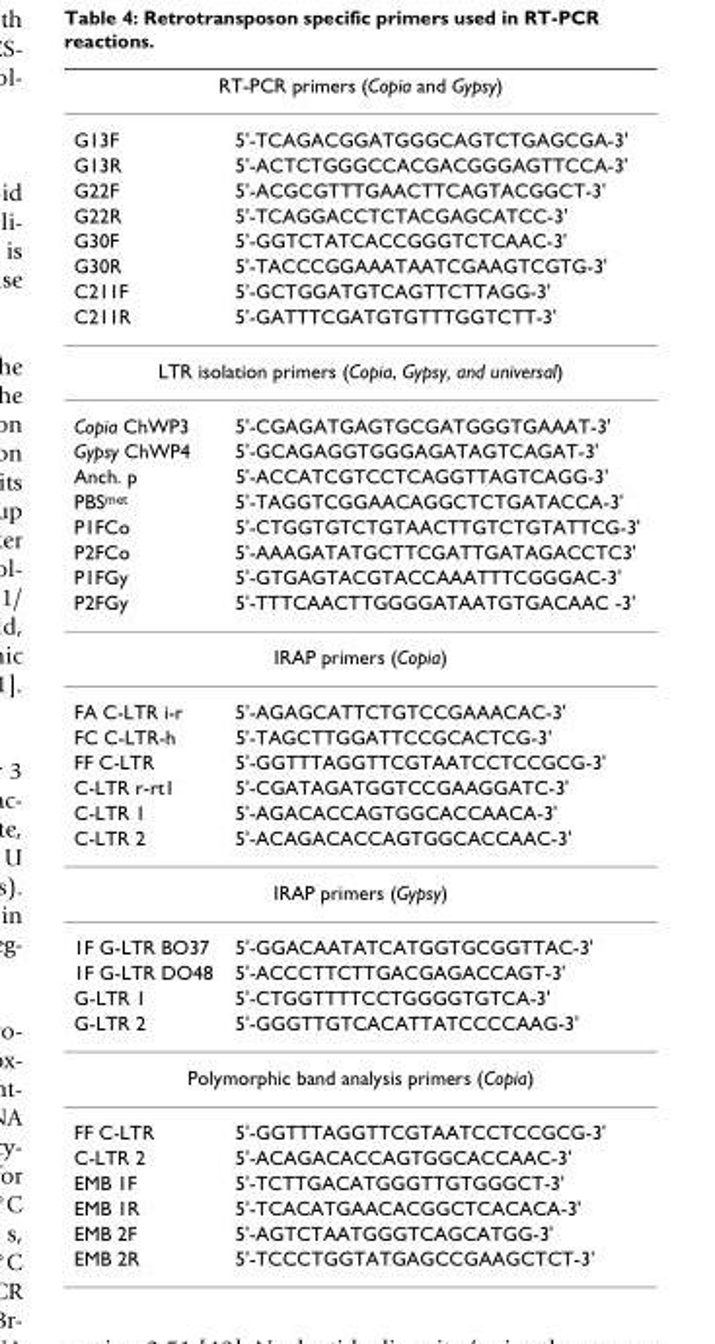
<table><thead><tr><td colspan="2">RT-PCR primers (Copia and Gypsy)</td></tr><tr><td>G13F</td><td>5&#x27;-TCAGACGGATGGGCAGTCTGAGCGA-3&#x27;</td></tr></thead><tbody><tr><td>G13R</td><td>5&#x27;-ACTCTGGGCCACGACGGGAGTTCCA-3&#x27;</td></tr><tr><td>G22F</td><td>5&#x27;-ACGCGTTTGAACTTCAGTACGGCT-3&#x27;</td></tr><tr><td>G22R</td><td>5&#x27;-TCAGGACCTCTACGAGCATCC-3&#x27;</td></tr><tr><td>G30F</td><td>5&#x27;-GGTCTATCACCGGGTCTCAAC-3&#x27;</td></tr><tr><td>G30R</td><td>5&#x27;-TACCCGGAAATAATCGAAGTCGTG-3&#x27;</td></tr><tr><td>C211F</td><td>5&#x27;-GCTGGATGTCAGTTCTTAGG-3&#x27;</td></tr><tr><td>C211R</td><td>5&#x27;-GATTTCGATGTGTTTGGTCTT-3&#x27;</td></tr><tr><td colspan="2">LTR isolation primers (Copia, Gypsy, and universal)</td></tr><tr><td>Copia ChWP3</td><td>5&#x27;-CGAGATGAGTGCGATGGGTGAAAT-3&#x27;</td></tr><tr><td>Gypsy ChWP4</td><td>5&#x27;-GCAGAGGTGGGAGATAGTCAGAT-3&#x27;</td></tr><tr><td>Anch. p</td><td>5&#x27;-ACCATCGTCCTCAGGTTAGTCAGG-3&#x27;</td></tr><tr><td>PBS<sup>met</sup></td><td>5&#x27;-TAGGTCGGAACAGGCTCTGATACCA-3&#x27;</td></tr><tr><td>P1FCo</td><td>5&#x27;-CTGGTGTCTGTAACTTGTCTGTATTCG-3&#x27;</td></tr><tr><td>P2FCo</td><td>5&#x27;-AAAGATATGCTTCGATTGATAGACCTC3&#x27;</td></tr><tr><td>P1FGy</td><td>5&#x27;-GTGAGTACGTACCAAATTTCGGGAC-3&#x27;</td></tr><tr><td>P2FGy</td><td>5&#x27;-TTTCAACTTGGGGATAATGTGACAAC -3&#x27;</td></tr><tr><td colspan="2">IRAP primers (Copia)</td></tr><tr><td>FA C-LTR i-r</td><td>5&#x27;-AGAGCATTCTGTCCGAAACAC-3&#x27;</td></tr><tr><td>FC C-LTR-h</td><td>5&#x27;-TAGCTTGGATTCCGCACTCG-3&#x27;</td></tr><tr><td>FF C-LTR</td><td>5&#x27;-GGTTTAGGTTCGTAATCCTCCGCG-3&#x27;</td></tr><tr><td>C-LTR r-rt1</td><td>5&#x27;-CGATAGATGGTCCGAAGGATC-3&#x27;</td></tr><tr><td>C-LTR 1</td><td>5&#x27;-AGACACCAGTGGCACCAACA-3&#x27;</td></tr><tr><td>C-LTR 2</td><td>5&#x27;-ACAGACACCAGTGGCACCAAC-3&#x27;</td></tr><tr><td colspan="2">IRAP primers (Gypsy)</td></tr><tr><td>1F G-LTR BO37</td><td>5&#x27;-GGACAATATCATGGTGCGGTTAC-3&#x27;</td></tr><tr><td>1F G-LTR DO48</td><td>5&#x27;-ACCCTTCTTGACGAGACCAGT-3&#x27;</td></tr><tr><td>G-LTR 1</td><td>5&#x27;-CTGGTTTTCCTGGGGTGTCA-3&#x27;</td></tr><tr><td>G-LTR 2</td><td>5&#x27;-GGGTTGTCACATTATCCCCAAG-3&#x27;</td></tr><tr><td colspan="2">Polymorphic band analysis primers (Copia)</td></tr><tr><td>FF C-LTR</td><td>5&#x27;-GGTTTAGGTTCGTAATCCTCCGCG-3&#x27;</td></tr><tr><td>C-LTR 2</td><td>5&#x27;-ACAGACACCAGTGGCACCAAC-3&#x27;</td></tr><tr><td>EMB 1F</td><td>5&#x27;-TCTTGACATGGGTTGTGGGCT-3&#x27;</td></tr><tr><td>EMB 1R</td><td>5&#x27;-TCACATGAACACGGCTCACACA-3&#x27;</td></tr><tr><td>EMB 2F</td><td>5&#x27;-AGTCTAATGGGTCAGCATGG-3&#x27;</td></tr><tr><td>EMB 2R</td><td>5&#x27;-TCCCTGGTATGAGCCGAAGCTCT-3&#x27;</td></tr></tbody></table>